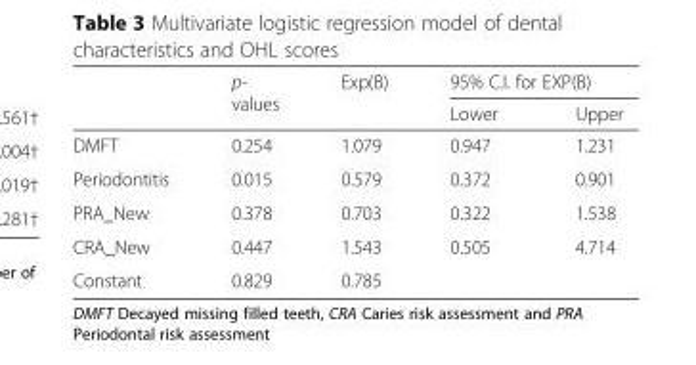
<table><thead><tr><td rowspan="2"></td><td rowspan="2">p- values</td><td rowspan="2">Exp(B)</td><td colspan="2">95% C.I. for EXP(B)</td></tr><tr><td>Lower</td><td>Upper</td></tr></thead><tbody><tr><td>DMFT</td><td>0.254</td><td>1.079</td><td>0.947</td><td>1.231</td></tr><tr><td>Periodontitis</td><td>0.015</td><td>0.579</td><td>0.372</td><td>0.901</td></tr><tr><td>PRA_New</td><td>0.378</td><td>0.703</td><td>0.322</td><td>1.538</td></tr><tr><td>CRA_New</td><td>0.447</td><td>1.543</td><td>0.505</td><td>4.714</td></tr><tr><td>Constant</td><td>0.829</td><td>0.785</td><td></td><td></td></tr></tbody></table>